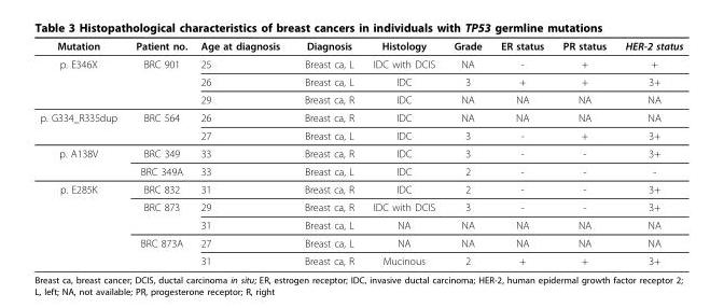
<table><thead><tr><td>Mutation</td><td>Patient no.</td><td>Age at diagnosis</td><td>Diagnosis</td><td>Histology</td><td>Grade</td><td>ER status</td><td>PR status</td><td>HER-2 status</td></tr></thead><tbody><tr><td rowspan="3">p. E346X</td><td>BRC 901</td><td>25</td><td>Breast ca, L</td><td>IDC with DCIS</td><td>NA</td><td>-</td><td>+</td><td>+</td></tr><tr><td></td><td>26</td><td>Breast ca, L</td><td>IDC</td><td>3</td><td>+</td><td>+</td><td>3+</td></tr><tr><td></td><td>29</td><td>Breast ca, R</td><td>IDC</td><td>NA</td><td>NA</td><td>NA</td><td>NA</td></tr><tr><td rowspan="2">p. G334_R335dup</td><td>BRC 564</td><td>26</td><td>Breast ca, R</td><td>IDC</td><td>NA</td><td>NA</td><td>NA</td><td>NA</td></tr><tr><td></td><td>27</td><td>Breast ca, L</td><td>IDC</td><td>3</td><td>-</td><td>+</td><td>3+</td></tr><tr><td rowspan="2">p. A138V</td><td>BRC 349</td><td>33</td><td>Breast ca, R</td><td>IDC</td><td>3</td><td>-</td><td>-</td><td>3+</td></tr><tr><td>BRC 349A</td><td>33</td><td>Breast ca, L</td><td>IDC</td><td>2</td><td>-</td><td>-</td><td>-</td></tr><tr><td rowspan="5">p. E285K</td><td>BRC 832</td><td>31</td><td>Breast ca, R</td><td>IDC</td><td>2</td><td>-</td><td>-</td><td>3+</td></tr><tr><td>BRC 873</td><td>29</td><td>Breast ca, R</td><td>IDC with DCIS</td><td>3</td><td>-</td><td>-</td><td>3+</td></tr><tr><td></td><td>31</td><td>Breast ca, L</td><td>NA</td><td>NA</td><td>NA</td><td>NA</td><td>NA</td></tr><tr><td>BRC 873A</td><td>27</td><td>Breast ca, L</td><td>NA</td><td>NA</td><td>NA</td><td>NA</td><td>NA</td></tr><tr><td></td><td>31</td><td>Breast ca, R</td><td>Mucinous</td><td>2</td><td>+</td><td>+</td><td>3+</td></tr></tbody></table>